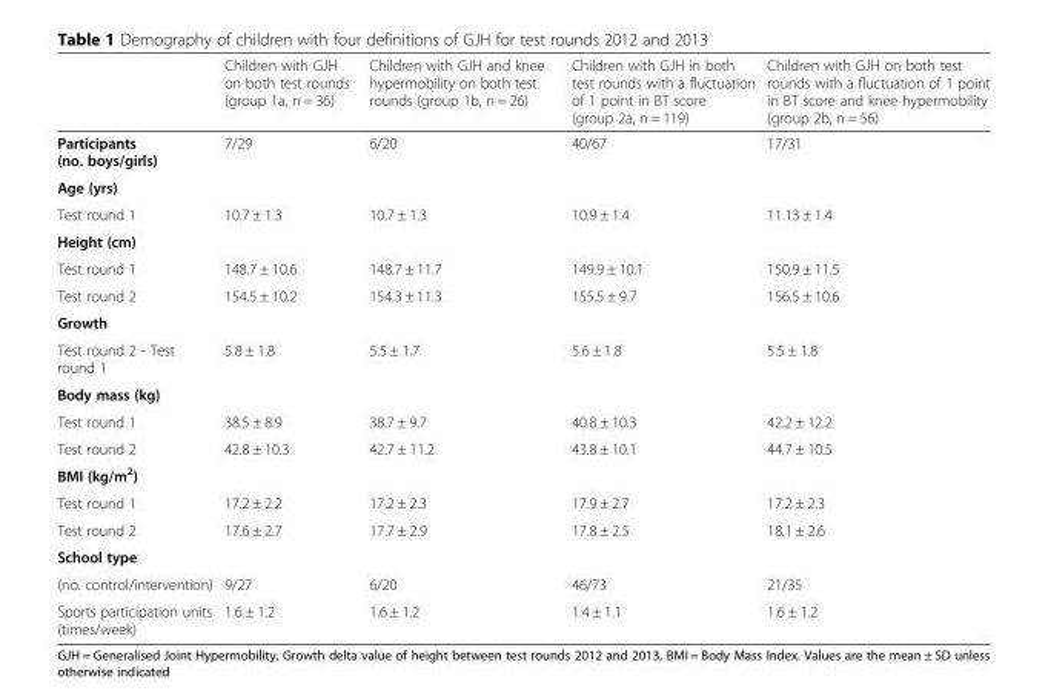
<table><thead><tr><td></td><td>Children with GJH on both test rounds (group 1a, n = 36)</td><td>Children with GJH and knee hypermobility on both test rounds (group 1b, n = 26)</td><td>Children with GJH in both test rounds with a fluctuation of 1 point in BT score (group 2a, n = 119)</td><td>Children with GJH on both test rounds with a fluctuation of 1 point in BT score and knee hypermobility (group 2b, n = 56)</td></tr></thead><tbody><tr><td>Participants (no. boys/girls)</td><td>7/29</td><td>6/20</td><td>40/67</td><td>17/31</td></tr><tr><td colspan="5">Age (yrs)</td></tr><tr><td>Test round 1</td><td>10.7 ± 1.3</td><td>10.7 ± 1.3</td><td>10.9 ± 1.4</td><td>11.13 ± 1.4</td></tr><tr><td colspan="5">Height (cm)</td></tr><tr><td>Test round 1</td><td>148.7 ± 10.6</td><td>148.7 ± 11.7</td><td>149.9 ± 10.1</td><td>150.9 ± 11.5</td></tr><tr><td>Test round 2</td><td>154.5 ± 10.2</td><td>154.3 ± 11.3</td><td>155.5 ± 9.7</td><td>156.5 ± 10.6</td></tr><tr><td colspan="5">Growth</td></tr><tr><td>Test round 2 - Test round 1</td><td>5.8 ± 1.8</td><td>5.5 ± 1.7</td><td>5.6 ± 1.8</td><td>5.5 ± 1.8</td></tr><tr><td colspan="5">Body mass (kg)</td></tr><tr><td>Test round 1</td><td>38.5 ± 8.9</td><td>38.7 ± 9.7</td><td>40.8 ± 10.3</td><td>42.2 ± 12.2</td></tr><tr><td>Test round 2</td><td>42.8 ± 10.3</td><td>42.7 ± 11.2</td><td>43.8 ± 10.1</td><td>44.7 ± 10.5</td></tr><tr><td colspan="5">BMI (kg/m<sup>2</sup>)</td></tr><tr><td>Test round 1</td><td>17.2 ± 2.2</td><td>17.2 ± 2.3</td><td>17.9 ± 2.7</td><td>17.2 ± 2.3</td></tr><tr><td>Test round 2</td><td>17.6 ± 2.7</td><td>17.7 ± 2.9</td><td>17.8 ± 2.5</td><td>18.1 ± 2.6</td></tr><tr><td colspan="5">School type</td></tr><tr><td>(no. control/intervention)</td><td>9/27</td><td>6/20</td><td>46/73</td><td>21/35</td></tr><tr><td>Sports participation units (times/week)</td><td>1.6 ± 1.2</td><td>1.6 ± 1.2</td><td>1.4 ± 1.1</td><td>1.6 ± 1.2</td></tr></tbody></table>